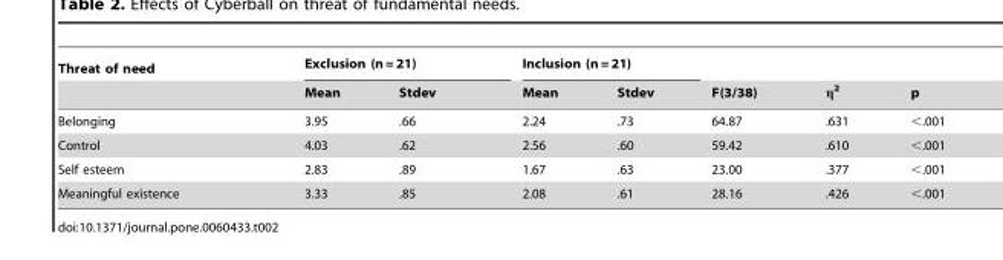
<table><thead><tr><td rowspan="2">Threat of need</td><td colspan="2">Exclusion (n = 21)</td><td colspan="2">Inclusion (n = 21)</td><td rowspan="2">F(3/38)</td><td rowspan="2">η<sup>2</sup></td><td rowspan="2">p</td></tr><tr><td>Mean</td><td>Stdev</td><td>Mean</td><td>Stdev</td></tr></thead><tbody><tr><td>Belonging</td><td>3.95</td><td>.66</td><td>2.24</td><td>.73</td><td>64.87</td><td>.631</td><td>&lt;.001</td></tr><tr><td>Control</td><td>4.03</td><td>.62</td><td>2.56</td><td>.60</td><td>59.42</td><td>.610</td><td>&lt;.001</td></tr><tr><td>Self esteem</td><td>2.83</td><td>.89</td><td>1.67</td><td>.63</td><td>23.00</td><td>.377</td><td>&lt;.001</td></tr><tr><td>Meaningful existence</td><td>3.33</td><td>.85</td><td>2.08</td><td>.61</td><td>28.16</td><td>.426</td><td>&lt;.001</td></tr></tbody></table>